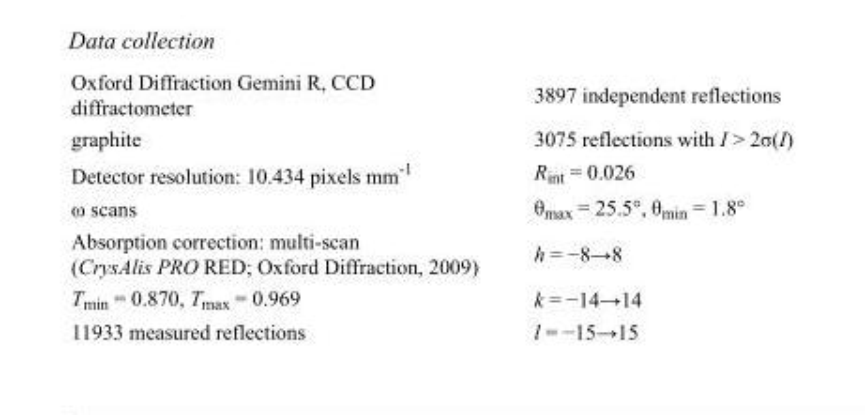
<table><tbody><tr><td>Oxford Diffraction Gemini R, CCD diffractometer</td><td>3897 independent reflections</td></tr><tr><td>graphite</td><td>3075 reflections with I &gt; 2σ(I)</td></tr><tr><td>Detector resolution: 10.434 pixels mm<sup>-1</sup></td><td>R<sub>int</sub> = 0.026</td></tr><tr><td>ω scans</td><td>θ<sub>max</sub> = 25.5°, θ<sub>min</sub> = 1.8°</td></tr><tr><td>Absorption correction: multi-scan (CrysAlis PRO RED; Oxford Diffraction, 2009)</td><td>h = −8→8</td></tr><tr><td>T<sub>min</sub> = 0.870, T<sub>max</sub> = 0.969</td><td>k = −14→14</td></tr><tr><td>11933 measured reflections</td><td>l = −15→15</td></tr></tbody></table>